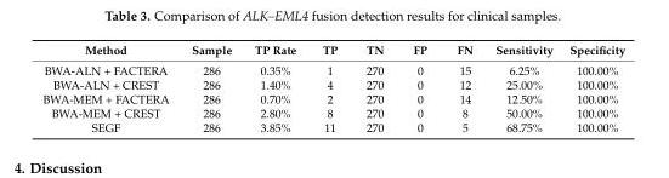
<table><thead><tr><td>Method</td><td>Sample</td><td>TP Rate</td><td>TP</td><td>TN</td><td>FP</td><td>FN</td><td>Sensitivity</td><td>Specificity</td></tr></thead><tbody><tr><td>BWA-ALN + FACTERA</td><td>286</td><td>0.35%</td><td>1</td><td>270</td><td>0</td><td>15</td><td>6.25%</td><td>100.00%</td></tr><tr><td>BWA-ALN + CREST</td><td>286</td><td>1.40%</td><td>4</td><td>270</td><td>0</td><td>12</td><td>25.00%</td><td>100.00%</td></tr><tr><td>BWA-MEM + FACTERA</td><td>286</td><td>0.70%</td><td>2</td><td>270</td><td>0</td><td>14</td><td>12.50%</td><td>100.00%</td></tr><tr><td>BWA-MEM + CREST</td><td>286</td><td>2.80%</td><td>8</td><td>270</td><td>0</td><td>8</td><td>50.00%</td><td>100.00%</td></tr><tr><td>SEGF</td><td>286</td><td>3.85%</td><td>11</td><td>270</td><td>0</td><td>5</td><td>68.75%</td><td>100.00%</td></tr></tbody></table>